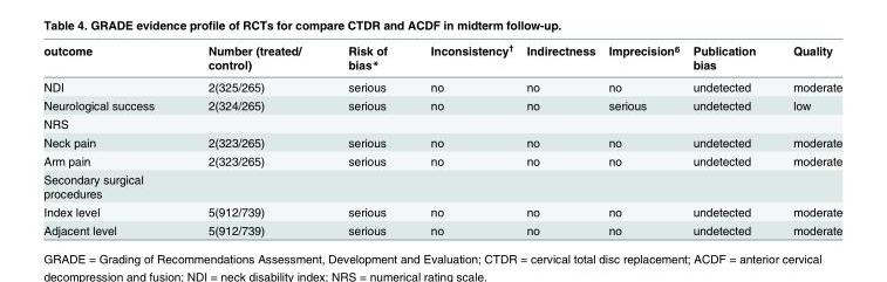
<table><thead><tr><td>outcome</td><td>Number (treated/ control)</td><td>Risk of bias*</td><td>Inconsistency†</td><td>Indirectness</td><td>Imprecision<sup>ᵷ</sup></td><td>Publication bias</td><td>Quality</td></tr></thead><tbody><tr><td>NDI</td><td>2(325/265)</td><td>serious</td><td>no</td><td>no</td><td>no</td><td>undetected</td><td>moderate</td></tr><tr><td>Neurological success</td><td>2(324/265)</td><td>serious</td><td>no</td><td>no</td><td>serious</td><td>undetected</td><td>low</td></tr><tr><td colspan="8">NRS</td></tr><tr><td>Neck pain</td><td>2(323/265)</td><td>serious</td><td>no</td><td>no</td><td>no</td><td>undetected</td><td>moderate</td></tr><tr><td>Arm pain</td><td>2(323/265)</td><td>serious</td><td>no</td><td>no</td><td>no</td><td>undetected</td><td>moderate</td></tr><tr><td colspan="8">Secondary surgical procedures</td></tr><tr><td>Index level</td><td>5(912/739)</td><td>serious</td><td>no</td><td>no</td><td>no</td><td>undetected</td><td>moderate</td></tr><tr><td>Adjacent level</td><td>5(912/739)</td><td>serious</td><td>no</td><td>no</td><td>no</td><td>undetected</td><td>moderate</td></tr></tbody></table>